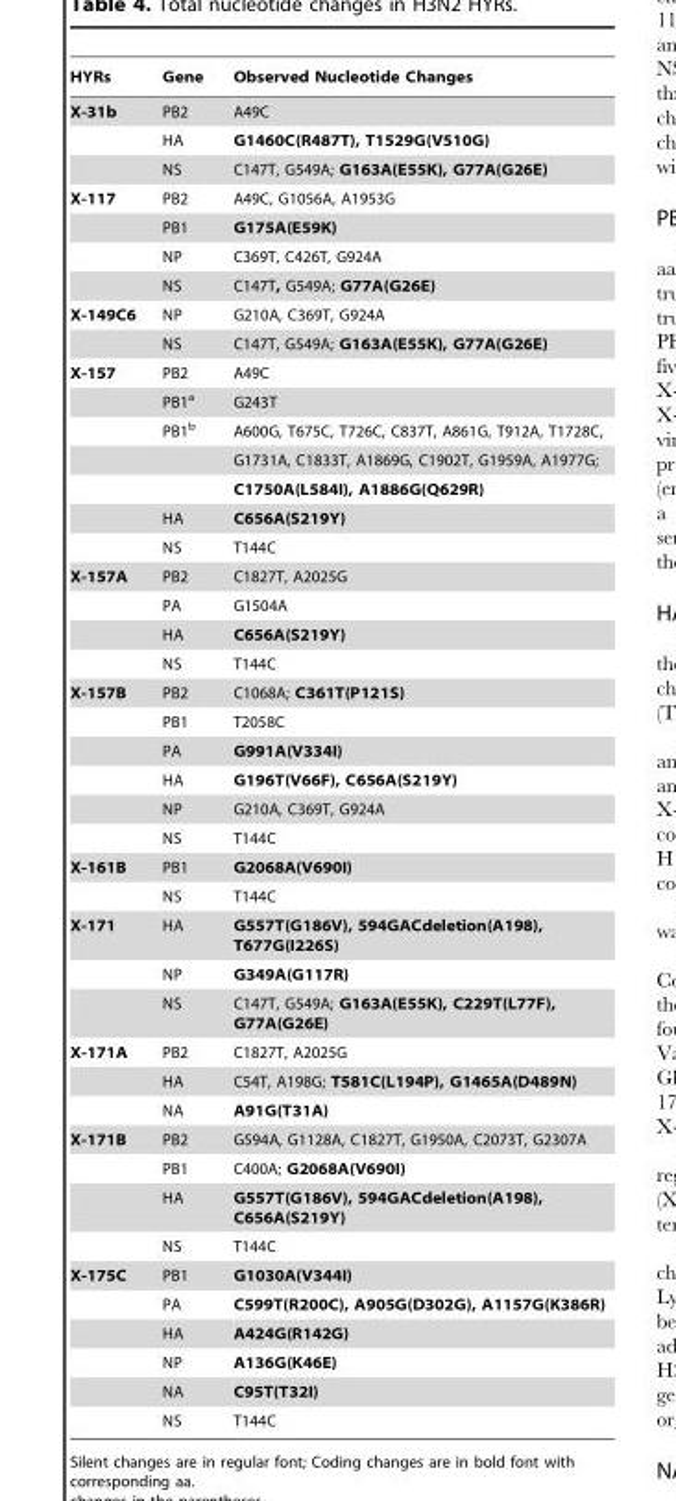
<table><thead><tr><td>HYRs</td><td>Gene</td><td>Observed Nucleotide Changes</td></tr></thead><tbody><tr><td rowspan="3">X-31b</td><td>PB2</td><td>A49C</td></tr><tr><td>HA</td><td>G1460C(R487T), T1529G(V510G)</td></tr><tr><td>NS</td><td>C147T, G549A; G163A(E55K), G77A(G26E)</td></tr><tr><td rowspan="4">X-117</td><td>PB2</td><td>A49C, G1056A, A1953G</td></tr><tr><td>PB1</td><td>G175A(E59K)</td></tr><tr><td>NP</td><td>C369T, C426T, G924A</td></tr><tr><td>NS</td><td>C147T, G549A; G77A(G26E)</td></tr><tr><td rowspan="2">X-149C6</td><td>NP</td><td>G210A, C369T, G924A</td></tr><tr><td>NS</td><td>C147T, G549A; G163A(E55K), G77A(G26E)</td></tr><tr><td rowspan="7">X-157</td><td>PB2</td><td>A49C</td></tr><tr><td>PB1<sup>a</sup></td><td>G243T</td></tr><tr><td>PB1<sup>b</sup></td><td>A600G, T675C, T726C, C837T, A861G, T912A, T1728C,</td></tr><tr><td></td><td>G1731A, C1833T, A1869G, C1902T, G1959A, A1977G;</td></tr><tr><td></td><td>C1750A(L584I), A1886G(Q629R)</td></tr><tr><td>HA</td><td>C656A(S219Y)</td></tr><tr><td>NS</td><td>T144C</td></tr><tr><td rowspan="4">X-157A</td><td>PB2</td><td>C1827T, A2025G</td></tr><tr><td>PA</td><td>G1504A</td></tr><tr><td>HA</td><td>C656A(S219Y)</td></tr><tr><td>NS</td><td>T144C</td></tr><tr><td rowspan="6">X-157B</td><td>PB2</td><td>C1068A; C361T(P121S)</td></tr><tr><td>PB1</td><td>T2058C</td></tr><tr><td>PA</td><td>G991A(V334I)</td></tr><tr><td>HA</td><td>G196T(V66F), C656A(S219Y)</td></tr><tr><td>NP</td><td>G210A, C369T, G924A</td></tr><tr><td>NS</td><td>T144C</td></tr><tr><td rowspan="2">X-161B</td><td>PB1</td><td>G2068A(V690I)</td></tr><tr><td>NS</td><td>T144C</td></tr><tr><td rowspan="3">X-171</td><td>HA</td><td>G557T(G186V), 594GACdeletion(A198), T677G(I226S)</td></tr><tr><td>NP</td><td>G349A(G117R)</td></tr><tr><td>NS</td><td>C147T, G549A; G163A(E55K), C229T(L77F), G77A(G26E)</td></tr><tr><td rowspan="3">X-171A</td><td>PB2</td><td>C1827T, A2025G</td></tr><tr><td>HA</td><td>C54T, A198G; T581C(L194P), G1465A(D489N)</td></tr><tr><td>NA</td><td>A91G(T31A)</td></tr><tr><td rowspan="4">X-171B</td><td>PB2</td><td>G594A, G1128A, C1827T, G1950A, C2073T, G2307A</td></tr><tr><td>PB1</td><td>C400A; G2068A(V690I)</td></tr><tr><td>HA</td><td>G557T(G186V), 594GACdeletion(A198), C656A(S219Y)</td></tr><tr><td>NS</td><td>T144C</td></tr><tr><td rowspan="6">X-175C</td><td>PB1</td><td>G1030A(V344I)</td></tr><tr><td>PA</td><td>C599T(R200C), A905G(D302G), A1157G(K386R)</td></tr><tr><td>HA</td><td>A424G(R142G)</td></tr><tr><td>NP</td><td>A136G(K46E)</td></tr><tr><td>NA</td><td>C95T(T32I)</td></tr><tr><td>NS</td><td>T144C</td></tr></tbody></table>